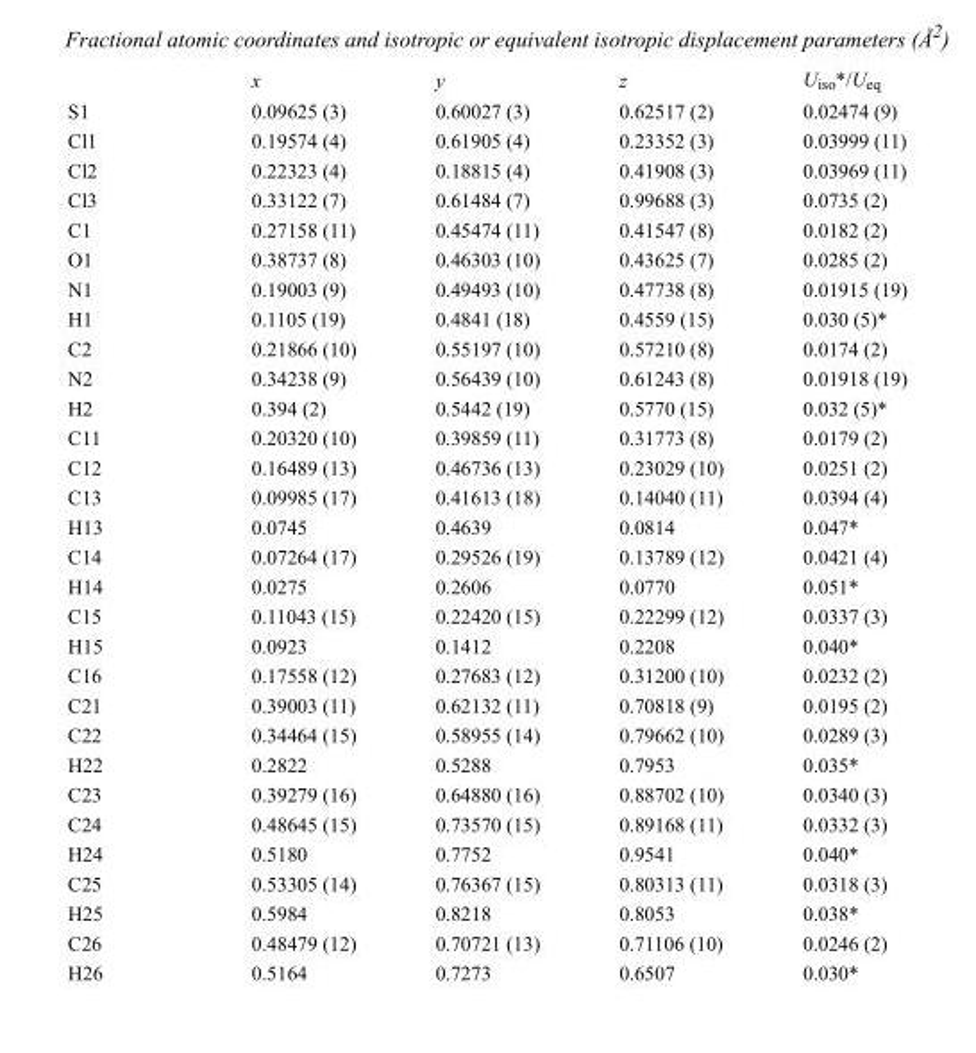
<table><thead><tr><td></td><td>x</td><td>y</td><td>z</td><td>U<sub>iso</sub>*/U<sub>eq</sub></td></tr></thead><tbody><tr><td>S1</td><td>0.09625 (3)</td><td>0.60027 (3)</td><td>0.62517 (2)</td><td>0.02474 (9)</td></tr><tr><td>Cl1</td><td>0.19574 (4)</td><td>0.61905 (4)</td><td>0.23352 (3)</td><td>0.03999 (11)</td></tr><tr><td>Cl2</td><td>0.22323 (4)</td><td>0.18815 (4)</td><td>0.41908 (3)</td><td>0.03969 (11)</td></tr><tr><td>Cl3</td><td>0.33122 (7)</td><td>0.61484 (7)</td><td>0.99688 (3)</td><td>0.0735 (2)</td></tr><tr><td>C1</td><td>0.27158 (11)</td><td>0.45474 (11)</td><td>0.41547 (8)</td><td>0.0182 (2)</td></tr><tr><td>O1</td><td>0.38737 (8)</td><td>0.46303 (10)</td><td>0.43625 (7)</td><td>0.0285 (2)</td></tr><tr><td>N1</td><td>0.19003 (9)</td><td>0.49493 (10)</td><td>0.47738 (8)</td><td>0.01915 (19)</td></tr><tr><td>H1</td><td>0.1105 (19)</td><td>0.4841 (18)</td><td>0.4559 (15)</td><td>0.030 (5)*</td></tr><tr><td>C2</td><td>0.21866 (10)</td><td>0.55197 (10)</td><td>0.57210 (8)</td><td>0.0174 (2)</td></tr><tr><td>N2</td><td>0.34238 (9)</td><td>0.56439 (10)</td><td>0.61243 (8)</td><td>0.01918 (19)</td></tr><tr><td>H2</td><td>0.394 (2)</td><td>0.5442 (19)</td><td>0.5770 (15)</td><td>0.032 (5)*</td></tr><tr><td>C11</td><td>0.20320 (10)</td><td>0.39859 (11)</td><td>0.31773 (8)</td><td>0.0179 (2)</td></tr><tr><td>C12</td><td>0.16489 (13)</td><td>0.46736 (13)</td><td>0.23029 (10)</td><td>0.0251 (2)</td></tr><tr><td>C13</td><td>0.09985 (17)</td><td>0.41613 (18)</td><td>0.14040 (11)</td><td>0.0394 (4)</td></tr><tr><td>H13</td><td>0.0745</td><td>0.4639</td><td>0.0814</td><td>0.047*</td></tr><tr><td>C14</td><td>0.07264 (17)</td><td>0.29526 (19)</td><td>0.13789 (12)</td><td>0.0421 (4)</td></tr><tr><td>H14</td><td>0.0275</td><td>0.2606</td><td>0.0770</td><td>0.051*</td></tr><tr><td>C15</td><td>0.11043 (15)</td><td>0.22420 (15)</td><td>0.22299 (12)</td><td>0.0337 (3)</td></tr><tr><td>H15</td><td>0.0923</td><td>0.1412</td><td>0.2208</td><td>0.040*</td></tr><tr><td>C16</td><td>0.17558 (12)</td><td>0.27683 (12)</td><td>0.31200 (10)</td><td>0.0232 (2)</td></tr><tr><td>C21</td><td>0.39003 (11)</td><td>0.62132 (11)</td><td>0.70818 (9)</td><td>0.0195 (2)</td></tr><tr><td>C22</td><td>0.34464 (15)</td><td>0.58955 (14)</td><td>0.79662 (10)</td><td>0.0289 (3)</td></tr><tr><td>H22</td><td>0.2822</td><td>0.5288</td><td>0.7953</td><td>0.035*</td></tr><tr><td>C23</td><td>0.39279 (16)</td><td>0.64880 (16)</td><td>0.88702 (10)</td><td>0.0340 (3)</td></tr><tr><td>C24</td><td>0.48645 (15)</td><td>0.73570 (15)</td><td>0.89168 (11)</td><td>0.0332 (3)</td></tr><tr><td>H24</td><td>0.5180</td><td>0.7752</td><td>0.9541</td><td>0.040*</td></tr><tr><td>C25</td><td>0.53305 (14)</td><td>0.76367 (15)</td><td>0.80313 (11)</td><td>0.0318 (3)</td></tr><tr><td>H25</td><td>0.5984</td><td>0.8218</td><td>0.8053</td><td>0.038*</td></tr><tr><td>C26</td><td>0.48479 (12)</td><td>0.70721 (13)</td><td>0.71106 (10)</td><td>0.0246 (2)</td></tr><tr><td>H26</td><td>0.5164</td><td>0.7273</td><td>0.6507</td><td>0.030*</td></tr></tbody></table>